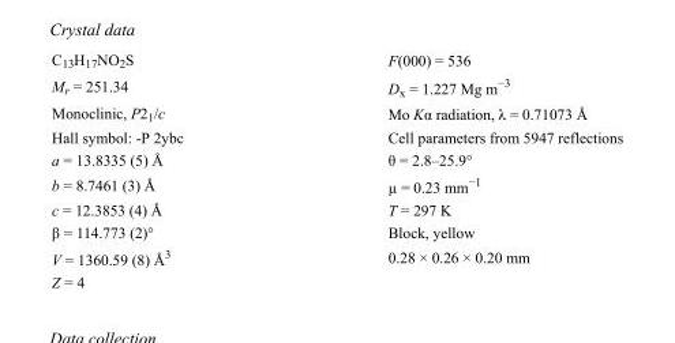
<table><tbody><tr><td>C<sub>13</sub>H<sub>17</sub>NO<sub>2</sub>S</td><td>F(000) = 536</td></tr><tr><td>M<sub>r</sub> = 251.34</td><td>D<sub>x</sub> = 1.227 Mg m<sup>−3</sup></td></tr><tr><td>Monoclinic, P2<sub>1</sub>/c</td><td>Mo Kα radiation, λ = 0.71073 Å</td></tr><tr><td>Hall symbol: -P 2ybc</td><td>Cell parameters from 5947 reflections</td></tr><tr><td>a = 13.8335 (5) Å</td><td>θ = 2.8–25.9°</td></tr><tr><td>b = 8.7461 (3) Å</td><td>µ = 0.23 mm<sup>−1</sup></td></tr><tr><td>c = 12.3853 (4) Å</td><td>T = 297 K</td></tr><tr><td>β = 114.773 (2)°</td><td>Block, yellow</td></tr><tr><td>V = 1360.59 (8) Å<sup>3</sup></td><td>0.28 × 0.26 × 0.20 mm</td></tr><tr><td>Z = 4</td><td></td></tr></tbody></table>